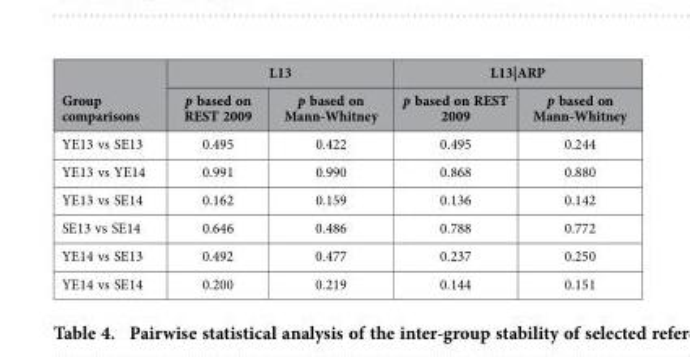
<table><thead><tr><td rowspan="2">Group comparisons</td><td colspan="2">L13</td><td colspan="2">L13|ARP</td></tr><tr><td>p based on REST 2009</td><td>p based on Mann-Whitney</td><td>p based on REST 2009</td><td>p based on Mann-Whitney</td></tr></thead><tbody><tr><td>YE13 vs SE13</td><td>0.495</td><td>0.422</td><td>0.495</td><td>0.244</td></tr><tr><td>YE13 vs YE14</td><td>0.991</td><td>0.990</td><td>0.868</td><td>0.880</td></tr><tr><td>YE13 vs SE14</td><td>0.162</td><td>0.159</td><td>0.136</td><td>0.142</td></tr><tr><td>SE13 vs SE14</td><td>0.646</td><td>0.486</td><td>0.788</td><td>0.772</td></tr><tr><td>YE14 vs SE13</td><td>0.492</td><td>0.477</td><td>0.237</td><td>0.250</td></tr><tr><td>YE14 vs SE14</td><td>0.200</td><td>0.219</td><td>0.144</td><td>0.151</td></tr></tbody></table>